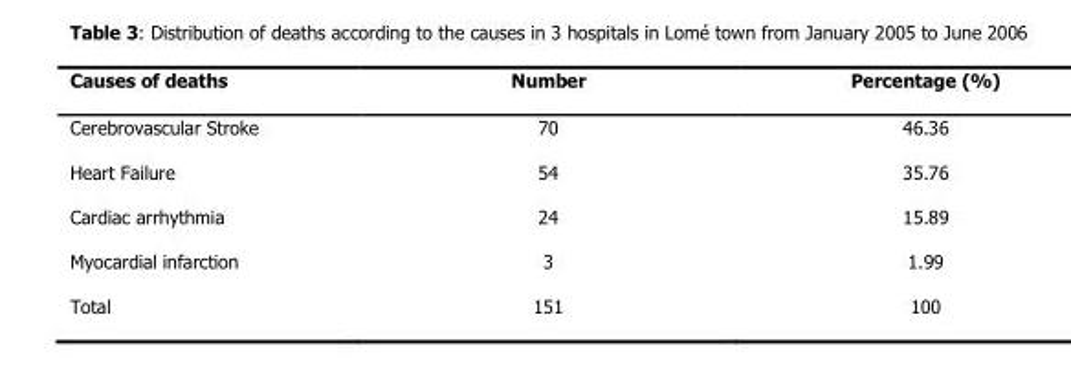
<table><thead><tr><td>Causes of deaths</td><td>Number</td><td>Percentage (%)</td></tr></thead><tbody><tr><td>Cerebrovascular Stroke</td><td>70</td><td>46.36</td></tr><tr><td>Heart Failure</td><td>54</td><td>35.76</td></tr><tr><td>Cardiac arrhythmia</td><td>24</td><td>15.89</td></tr><tr><td>Myocardial infarction</td><td>3</td><td>1.99</td></tr><tr><td>Total</td><td>151</td><td>100</td></tr></tbody></table>